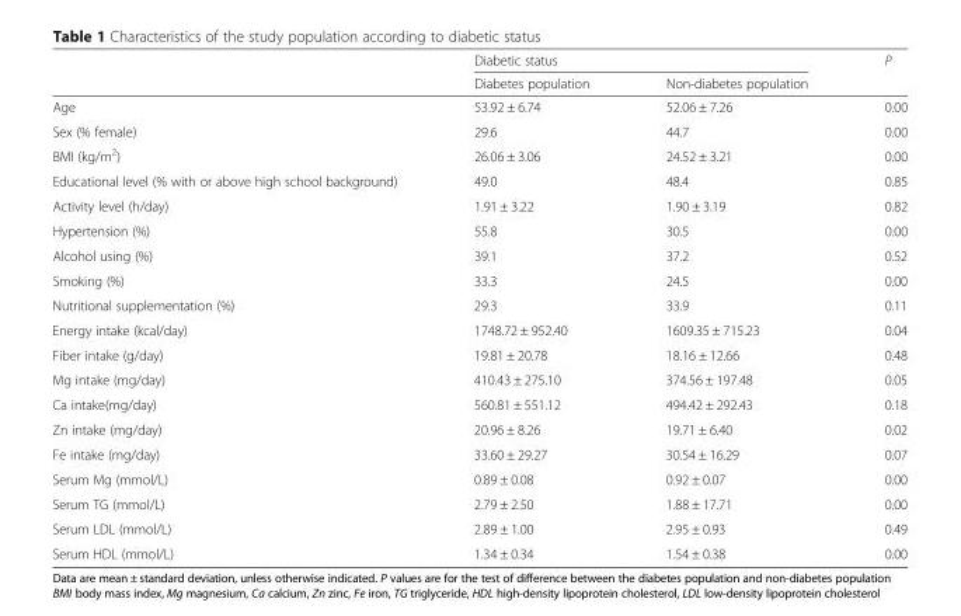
<table><thead><tr><td rowspan="2"></td><td colspan="2">Diabetic status</td><td rowspan="2">P</td></tr><tr><td>Diabetes population</td><td>Non-diabetes population</td></tr></thead><tbody><tr><td>Age</td><td>53.92 ± 6.74</td><td>52.06 ± 7.26</td><td>0.00</td></tr><tr><td>Sex (% female)</td><td>29.6</td><td>44.7</td><td>0.00</td></tr><tr><td>BMI (kg/m<sup>2</sup>)</td><td>26.06 ± 3.06</td><td>24.52 ± 3.21</td><td>0.00</td></tr><tr><td>Educational level (% with or above high school background)</td><td>49.0</td><td>48.4</td><td>0.85</td></tr><tr><td>Activity level (h/day)</td><td>1.91 ± 3.22</td><td>1.90 ± 3.19</td><td>0.82</td></tr><tr><td>Hypertension (%)</td><td>55.8</td><td>30.5</td><td>0.00</td></tr><tr><td>Alcohol using (%)</td><td>39.1</td><td>37.2</td><td>0.52</td></tr><tr><td>Smoking (%)</td><td>33.3</td><td>24.5</td><td>0.00</td></tr><tr><td>Nutritional supplementation (%)</td><td>29.3</td><td>33.9</td><td>0.11</td></tr><tr><td>Energy intake (kcal/day)</td><td>1748.72 ± 952.40</td><td>1609.35 ± 715.23</td><td>0.04</td></tr><tr><td>Fiber intake (g/day)</td><td>19.81 ± 20.78</td><td>18.16 ± 12.66</td><td>0.48</td></tr><tr><td>Mg intake (mg/day)</td><td>410.43 ± 275.10</td><td>374.56 ± 197.48</td><td>0.05</td></tr><tr><td>Ca intake(mg/day)</td><td>560.81 ± 551.12</td><td>494.42 ± 292.43</td><td>0.18</td></tr><tr><td>Zn intake (mg/day)</td><td>20.96 ± 8.26</td><td>19.71 ± 6.40</td><td>0.02</td></tr><tr><td>Fe intake (mg/day)</td><td>33.60 ± 29.27</td><td>30.54 ± 16.29</td><td>0.07</td></tr><tr><td>Serum Mg (mmol/L)</td><td>0.89 ± 0.08</td><td>0.92 ± 0.07</td><td>0.00</td></tr><tr><td>Serum TG (mmol/L)</td><td>2.79 ± 2.50</td><td>1.88 ± 17.71</td><td>0.00</td></tr><tr><td>Serum LDL (mmol/L)</td><td>2.89 ± 1.00</td><td>2.95 ± 0.93</td><td>0.49</td></tr><tr><td>Serum HDL (mmol/L)</td><td>1.34 ± 0.34</td><td>1.54 ± 0.38</td><td>0.00</td></tr></tbody></table>